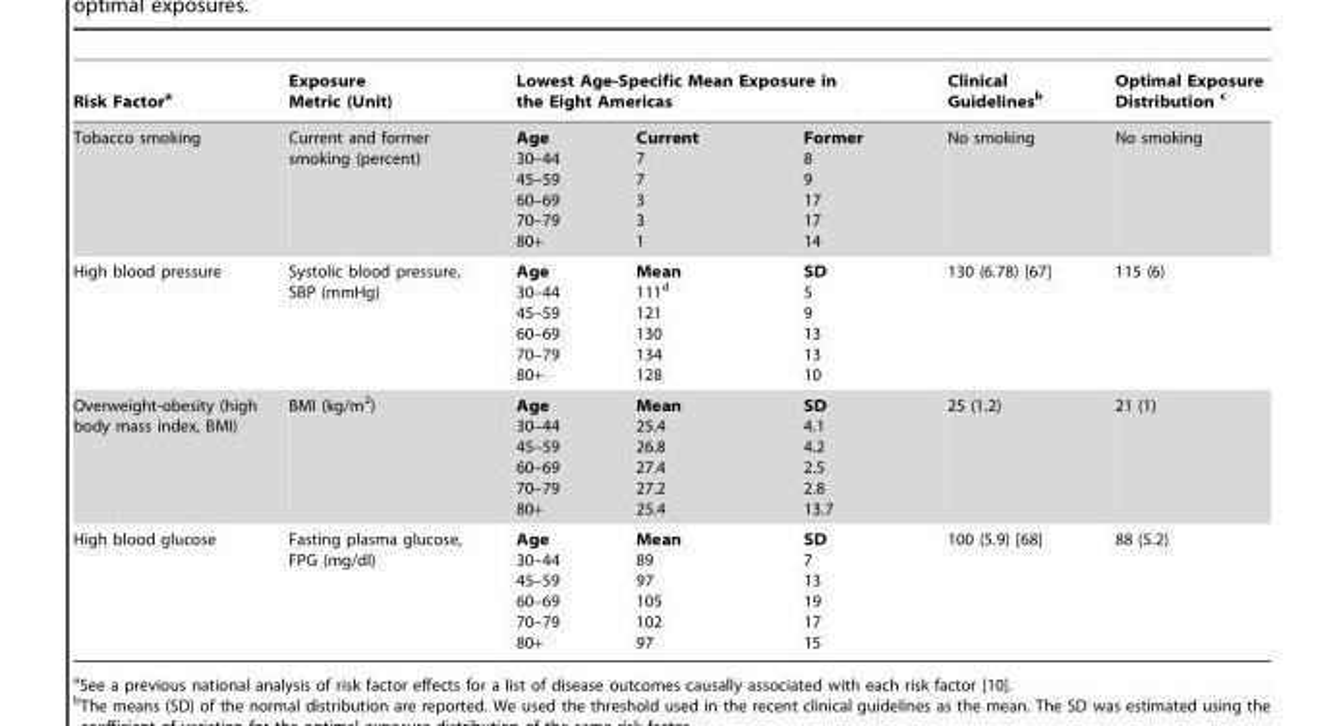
<table><thead><tr><td rowspan="2">Risk Factor<sup>a</sup> Tobacco smoking</td><td rowspan="2">Exposure Metric (Unit) Current and former smoking (percent)</td><td colspan="3">Lowest Age-Specific Mean Exposure in the Eight Americas</td><td rowspan="2">Clinical Guidelines<sup>b</sup> No smoking</td><td rowspan="2">Optimal Exposure Distribution c No smoking</td></tr><tr><td>Age 30–44 45–59 60–69 70–79 80+</td><td>Current 7 7 3 3 1</td><td>Former 8 9 17 17 14</td></tr></thead><tbody><tr><td>High blood pressure</td><td>Systolic blood pressure, SBP (mmHg)</td><td>Age 30–44 45–59 60–69 70–79 80+</td><td>Mean 111<sup>d</sup> 121 130 134 128</td><td>SD 5 9 13 13 10</td><td>130 (6.78) [67]</td><td>115 (6)</td></tr><tr><td>Overweight-obesity (high body mass index, BMI)</td><td>BMI (kg/m<sup>2</sup>)</td><td>Age 30–44 45–59 60–69 70–79 80+</td><td>Mean 25.4 26.8 27.4 27.2 25.4</td><td>SD 4.1 4.2 2.5 2.8 13.7</td><td>25 (1.2)</td><td>21 (1)</td></tr><tr><td>High blood glucose</td><td>Fasting plasma glucose, FPG (mg/dl)</td><td>Age 30–44 45–59 60–69 70–79 80+</td><td>Mean 89 97 105 102 97</td><td>SD 7 13 19 17 15</td><td>100 (5.9) [68]</td><td>88 (5.2)</td></tr></tbody></table>